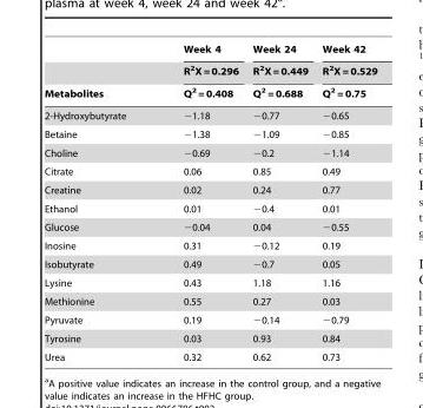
<table><thead><tr><td rowspan="3">Metabolites</td><td rowspan="3">Week 4 R<sup>2</sup>X = 0.296 Q<sup>2</sup> = 0.408</td><td rowspan="3">Week 24 R<sup>2</sup>X = 0.449 Q<sup>2</sup> = 0.688</td><td rowspan="3">Week 42 R<sup>2</sup>X = 0.529 Q<sup>2</sup> = 0.75</td></tr><tr></tr><tr></tr></thead><tbody><tr><td>2-Hydroxybutyrate</td><td>−1.18</td><td>−0.77</td><td>−0.65</td></tr><tr><td>Betaine</td><td>−1.38</td><td>−1.09</td><td>−0.85</td></tr><tr><td>Choline</td><td>−0.69</td><td>−0.2</td><td>−1.14</td></tr><tr><td>Citrate</td><td>0.06</td><td>0.85</td><td>0.49</td></tr><tr><td>Creatine</td><td>0.02</td><td>0.24</td><td>0.77</td></tr><tr><td>Ethanol</td><td>0.01</td><td>−0.4</td><td>0.01</td></tr><tr><td>Glucose</td><td>−0.04</td><td>0.04</td><td>−0.55</td></tr><tr><td>Inosine</td><td>0.31</td><td>−0.12</td><td>0.19</td></tr><tr><td>Isobutyrate</td><td>0.49</td><td>−0.7</td><td>0.05</td></tr><tr><td>Lysine</td><td>0.43</td><td>1.18</td><td>1.16</td></tr><tr><td>Methionine</td><td>0.55</td><td>0.27</td><td>0.03</td></tr><tr><td>Pyruvate</td><td>0.19</td><td>−0.14</td><td>−0.79</td></tr><tr><td>Tyrosine</td><td>0.03</td><td>0.93</td><td>0.84</td></tr><tr><td>Urea</td><td>0.32</td><td>0.62</td><td>0.73</td></tr></tbody></table>